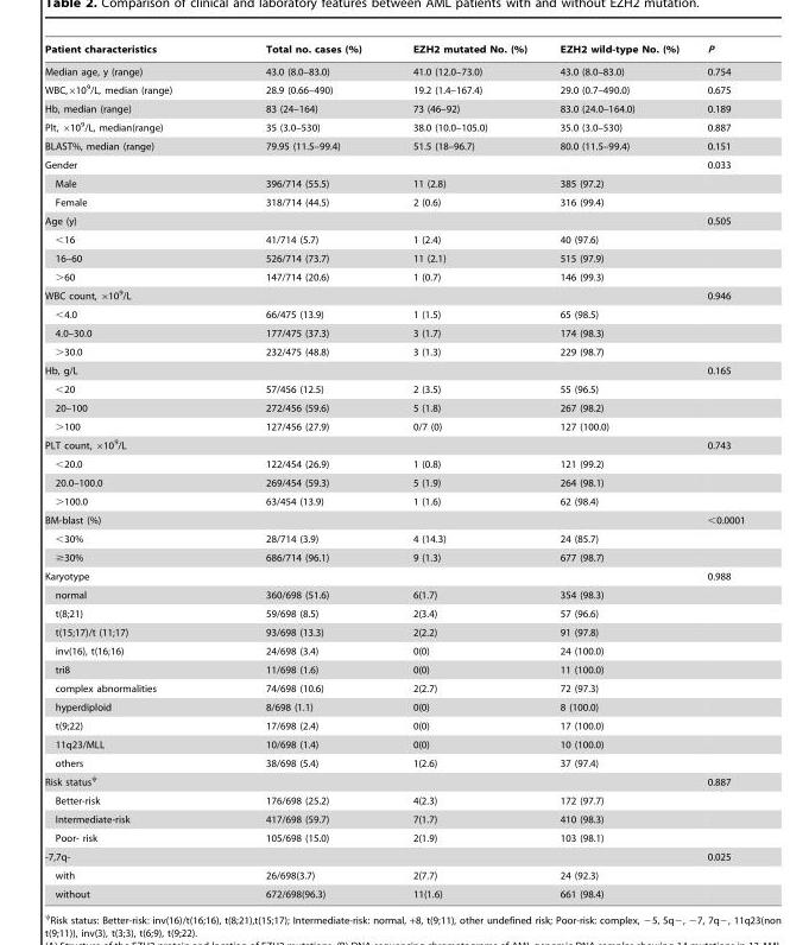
<table><thead><tr><td>Patient characteristics</td><td>Total no. cases (%)</td><td>EZH2 mutated No. (%)</td><td>EZH2 wild-type No. (%)</td><td>P</td></tr></thead><tbody><tr><td>Median age, y (range)</td><td>43.0 (8.0–83.0)</td><td>41.0 (12.0–73.0)</td><td>43.0 (8.0–83.0)</td><td>0.754</td></tr><tr><td>WBC,×10<sup>9</sup>/L, median (range)</td><td>28.9 (0.66–490)</td><td>19.2 (1.4–167.4)</td><td>29.0 (0.7–490.0)</td><td>0.675</td></tr><tr><td>Hb, median (range)</td><td>83 (24–164)</td><td>73 (46–92)</td><td>83.0 (24.0–164.0)</td><td>0.189</td></tr><tr><td>Plt, ×10<sup>9</sup>/L, median(range)</td><td>35 (3.0–530)</td><td>38.0 (10.0–105.0)</td><td>35.0 (3.0–530)</td><td>0.887</td></tr><tr><td>BLAST%, median (range)</td><td>79.95 (11.5–99.4)</td><td>51.5 (18–96.7)</td><td>80.0 (11.5–99.4)</td><td>0.151</td></tr><tr><td>Gender</td><td></td><td></td><td></td><td>0.033</td></tr><tr><td>Male</td><td>396/714 (55.5)</td><td>11 (2.8)</td><td>385 (97.2)</td><td></td></tr><tr><td>Female</td><td>318/714 (44.5)</td><td>2 (0.6)</td><td>316 (99.4)</td><td></td></tr><tr><td>Age (y)</td><td></td><td></td><td></td><td>0.505</td></tr><tr><td>&lt;16</td><td>41/714 (5.7)</td><td>1 (2.4)</td><td>40 (97.6)</td><td></td></tr><tr><td>16–60</td><td>526/714 (73.7)</td><td>11 (2.1)</td><td>515 (97.9)</td><td></td></tr><tr><td>&gt;60</td><td>147/714 (20.6)</td><td>1 (0.7)</td><td>146 (99.3)</td><td></td></tr><tr><td>WBC count, ×10<sup>9</sup>/L</td><td></td><td></td><td></td><td>0.946</td></tr><tr><td>&lt;4.0</td><td>66/475 (13.9)</td><td>1 (1.5)</td><td>65 (98.5)</td><td></td></tr><tr><td>4.0–30.0</td><td>177/475 (37.3)</td><td>3 (1.7)</td><td>174 (98.3)</td><td></td></tr><tr><td>&gt;30.0</td><td>232/475 (48.8)</td><td>3 (1.3)</td><td>229 (98.7)</td><td></td></tr><tr><td>Hb, g/L</td><td></td><td></td><td></td><td>0.165</td></tr><tr><td>&lt;20</td><td>57/456 (12.5)</td><td>2 (3.5)</td><td>55 (96.5)</td><td></td></tr><tr><td>20–100</td><td>272/456 (59.6)</td><td>5 (1.8)</td><td>267 (98.2)</td><td></td></tr><tr><td>&gt;100</td><td>127/456 (27.9)</td><td>0/7 (0)</td><td>127 (100.0)</td><td></td></tr><tr><td>PLT count, ×10<sup>9</sup>/L</td><td></td><td></td><td></td><td>0.743</td></tr><tr><td>&lt;20.0</td><td>122/454 (26.9)</td><td>1 (0.8)</td><td>121 (99.2)</td><td></td></tr><tr><td>20.0–100.0</td><td>269/454 (59.3)</td><td>5 (1.9)</td><td>264 (98.1)</td><td></td></tr><tr><td>&gt;100.0</td><td>63/454 (13.9)</td><td>1 (1.6)</td><td>62 (98.4)</td><td></td></tr><tr><td>BM-blast (%)</td><td></td><td></td><td></td><td>&lt;0.0001</td></tr><tr><td>&lt;30%</td><td>28/714 (3.9)</td><td>4 (14.3)</td><td>24 (85.7)</td><td></td></tr><tr><td>≥30%</td><td>686/714 (96.1)</td><td>9 (1.3)</td><td>677 (98.7)</td><td></td></tr><tr><td>Karyotype</td><td></td><td></td><td></td><td>0.988</td></tr><tr><td>normal</td><td>360/698 (51.6)</td><td>6(1.7)</td><td>354 (98.3)</td><td></td></tr><tr><td>t(8;21)</td><td>59/698 (8.5)</td><td>2(3.4)</td><td>57 (96.6)</td><td></td></tr><tr><td>t(15;17)/t (11;17)</td><td>93/698 (13.3)</td><td>2(2.2)</td><td>91 (97.8)</td><td></td></tr><tr><td>inv(16), t(16;16)</td><td>24/698 (3.4)</td><td>0(0)</td><td>24 (100.0)</td><td></td></tr><tr><td>tri8</td><td>11/698 (1.6)</td><td>0(0)</td><td>11 (100.0)</td><td></td></tr><tr><td>complex abnormalities</td><td>74/698 (10.6)</td><td>2(2.7)</td><td>72 (97.3)</td><td></td></tr><tr><td>hyperdiploid</td><td>8/698 (1.1)</td><td>0(0)</td><td>8 (100.0)</td><td></td></tr><tr><td>t(9;22)</td><td>17/698 (2.4)</td><td>0(0)</td><td>17 (100.0)</td><td></td></tr><tr><td>11q23/MLL</td><td>10/698 (1.4)</td><td>0(0)</td><td>10 (100.0)</td><td></td></tr><tr><td>others</td><td>38/698 (5.4)</td><td>1(2.6)</td><td>37 (97.4)</td><td></td></tr><tr><td>Risk statusψ</td><td></td><td></td><td></td><td>0.887</td></tr><tr><td>Better-risk</td><td>176/698 (25.2)</td><td>4(2.3)</td><td>172 (97.7)</td><td></td></tr><tr><td>Intermediate-risk</td><td>417/698 (59.7)</td><td>7(1.7)</td><td>410 (98.3)</td><td></td></tr><tr><td>Poor- risk</td><td>105/698 (15.0)</td><td>2(1.9)</td><td>103 (98.1)</td><td></td></tr><tr><td>-7,7q-</td><td></td><td></td><td></td><td>0.025</td></tr><tr><td>with</td><td>26/698(3.7)</td><td>2(7.7)</td><td>24 (92.3)</td><td></td></tr><tr><td>without</td><td>672/698(96.3)</td><td>11(1.6)</td><td>661 (98.4)</td><td></td></tr></tbody></table>